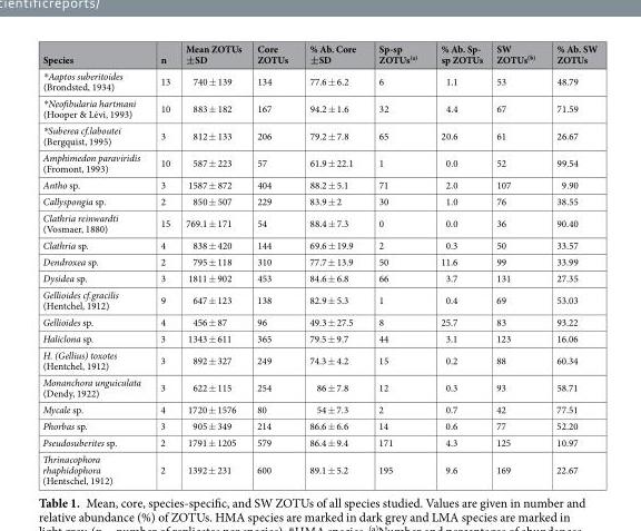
<table><thead><tr><td>Species</td><td>n</td><td>Mean ZOTUs ±SD</td><td>Core ZOTUs</td><td>% Ab. Core ±SD</td><td>Sp-sp ZOTUs<sup>(a)</sup></td><td>% Ab. Sp- sp ZOTUs</td><td>SW ZOTUs<sup>(b)</sup></td><td>% Ab. SW ZOTUs</td></tr></thead><tbody><tr><td>*Aaptos suberitoides (Brondsted, 1934)</td><td>13</td><td>740 ± 139</td><td>134</td><td>77.6 ± 6.2</td><td>6</td><td>1.1</td><td>53</td><td>48.79</td></tr><tr><td>*Neofibularia hartmani (Hooper &amp; Lévi, 1993)</td><td>10</td><td>883 ± 182</td><td>167</td><td>94.2 ± 1.6</td><td>32</td><td>4.4</td><td>67</td><td>71.59</td></tr><tr><td>*Suberea cf.laboutei (Bergquist, 1995)</td><td>3</td><td>812 ± 133</td><td>206</td><td>79.2 ± 7.8</td><td>65</td><td>20.6</td><td>61</td><td>26.67</td></tr><tr><td>Amphimedon paraviridis (Fromont, 1993)</td><td>10</td><td>587 ± 223</td><td>57</td><td>61.9 ± 22.1</td><td>1</td><td>0.0</td><td>52</td><td>99.54</td></tr><tr><td>Antho sp.</td><td>3</td><td>1587 ± 872</td><td>404</td><td>88.2 ± 5.1</td><td>71</td><td>2.0</td><td>107</td><td>9.90</td></tr><tr><td>Callyspongia sp.</td><td>2</td><td>850 ± 507</td><td>229</td><td>83.9 ± 2</td><td>30</td><td>1.0</td><td>76</td><td>38.55</td></tr><tr><td>Clathria reinwardti (Vosmaer, 1880)</td><td>15</td><td>769.1 ± 171</td><td>54</td><td>88.4 ± 7.3</td><td>0</td><td>0.0</td><td>36</td><td>90.40</td></tr><tr><td>Clathria sp.</td><td>4</td><td>838 ± 420</td><td>144</td><td>69.6 ± 19.9</td><td>2</td><td>0.3</td><td>50</td><td>33.57</td></tr><tr><td>Dendroxea sp.</td><td>2</td><td>795 ± 118</td><td>310</td><td>77.7 ± 13.9</td><td>50</td><td>11.6</td><td>99</td><td>33.99</td></tr><tr><td>Dysidea sp.</td><td>3</td><td>1811 ± 902</td><td>453</td><td>84.6 ± 6.8</td><td>66</td><td>3.7</td><td>131</td><td>27.35</td></tr><tr><td>Gellioides cf.gracilis (Hentchel, 1912)</td><td>9</td><td>647 ± 123</td><td>138</td><td>82.9 ± 5.3</td><td>1</td><td>0.4</td><td>69</td><td>53.03</td></tr><tr><td>Gellioides sp.</td><td>4</td><td>456 ± 87</td><td>96</td><td>49.3 ± 27.5</td><td>8</td><td>25.7</td><td>83</td><td>93.22</td></tr><tr><td>Haliclona sp.</td><td>3</td><td>1343 ± 611</td><td>365</td><td>79.5 ± 9.7</td><td>44</td><td>3.1</td><td>123</td><td>16.06</td></tr><tr><td>H. (Gellius) toxotes (Hentchel, 1912)</td><td>3</td><td>892 ± 327</td><td>249</td><td>74.3 ± 4.2</td><td>15</td><td>0.2</td><td>88</td><td>60.34</td></tr><tr><td>Monanchora unguiculata (Dendy, 1922)</td><td>3</td><td>622 ± 115</td><td>254</td><td>86 ± 7.8</td><td>12</td><td>0.3</td><td>93</td><td>58.71</td></tr><tr><td>Mycale sp.</td><td>4</td><td>1720 ± 1576</td><td>80</td><td>54 ± 7.3</td><td>2</td><td>0.7</td><td>42</td><td>77.51</td></tr><tr><td>Phorbas sp.</td><td>3</td><td>905 ± 349</td><td>214</td><td>86.6 ± 6.6</td><td>14</td><td>0.6</td><td>77</td><td>52.20</td></tr><tr><td>Pseudosuberites sp.</td><td>2</td><td>1791 ± 1205</td><td>579</td><td>86.4 ± 9.4</td><td>171</td><td>4.3</td><td>125</td><td>10.97</td></tr><tr><td>Thrinacophora rhaphidophora (Hentschel, 1912)</td><td>2</td><td>1392 ± 231</td><td>600</td><td>89.1 ± 5.2</td><td>195</td><td>9.6</td><td>169</td><td>22.67</td></tr></tbody></table>